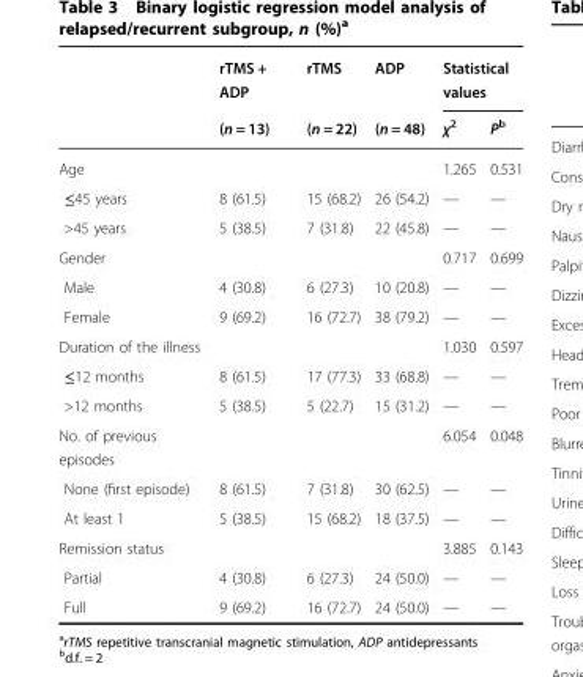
<table><thead><tr><td rowspan="2"></td><td rowspan="2">rTMS + ADP (n = 13)</td><td rowspan="2">rTMS (n = 22)</td><td rowspan="2">ADP (n = 48)</td><td colspan="2">Statistical values</td></tr><tr><td>χ<sup>2</sup></td><td>P<sup>b</sup></td></tr></thead><tbody><tr><td>Age</td><td></td><td></td><td></td><td>1.265</td><td>0.531</td></tr><tr><td>≤45 years</td><td>8 (61.5)</td><td>15 (68.2)</td><td>26 (54.2)</td><td>—</td><td>—</td></tr><tr><td>&gt;45 years</td><td>5 (38.5)</td><td>7 (31.8)</td><td>22 (45.8)</td><td>—</td><td>—</td></tr><tr><td>Gender</td><td></td><td></td><td></td><td>0.717</td><td>0.699</td></tr><tr><td>Male</td><td>4 (30.8)</td><td>6 (27.3)</td><td>10 (20.8)</td><td>—</td><td>—</td></tr><tr><td>Female</td><td>9 (69.2)</td><td>16 (72.7)</td><td>38 (79.2)</td><td>—</td><td>—</td></tr><tr><td>Duration of the illness</td><td></td><td></td><td></td><td>1.030</td><td>0.597</td></tr><tr><td>≤12 months</td><td>8 (61.5)</td><td>17 (77.3)</td><td>33 (68.8)</td><td>—</td><td>—</td></tr><tr><td>&gt;12 months</td><td>5 (38.5)</td><td>5 (22.7)</td><td>15 (31.2)</td><td>—</td><td>—</td></tr><tr><td>No. of previous episodes</td><td></td><td></td><td></td><td>6.054</td><td>0.048</td></tr><tr><td>None (first episode)</td><td>8 (61.5)</td><td>7 (31.8)</td><td>30 (62.5)</td><td>—</td><td>—</td></tr><tr><td>At least 1</td><td>5 (38.5)</td><td>15 (68.2)</td><td>18 (37.5)</td><td>—</td><td>—</td></tr><tr><td>Remission status</td><td></td><td></td><td></td><td>3.885</td><td>0.143</td></tr><tr><td>Partial</td><td>4 (30.8)</td><td>6 (27.3)</td><td>24 (50.0)</td><td>—</td><td>—</td></tr><tr><td>Full</td><td>9 (69.2)</td><td>16 (72.7)</td><td>24 (50.0)</td><td>—</td><td>—</td></tr></tbody></table>